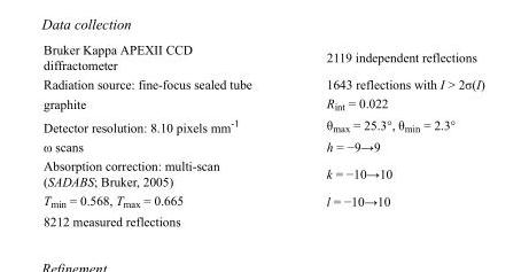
<table><tbody><tr><td>Bruker Kappa APEXII CCD diffractometer</td><td>2119 independent reflections</td></tr><tr><td>Radiation source: fine-focus sealed tube</td><td>1643 reflections with I &gt; 2σ(I)</td></tr><tr><td>graphite</td><td>R<sub>int</sub> = 0.022</td></tr><tr><td>Detector resolution: 8.10 pixels mm<sup>-1</sup></td><td>θ<sub>max</sub> = 25.3°, θ<sub>min</sub> = 2.3°</td></tr><tr><td>ω scans</td><td>h = −9→9</td></tr><tr><td>Absorption correction: multi-scan (SADABS; Bruker, 2005)</td><td>k = −10→10</td></tr><tr><td>T<sub>min</sub> = 0.568, T<sub>max</sub> = 0.665</td><td>l = −10→10</td></tr><tr><td>8212 measured reflections</td><td></td></tr></tbody></table>